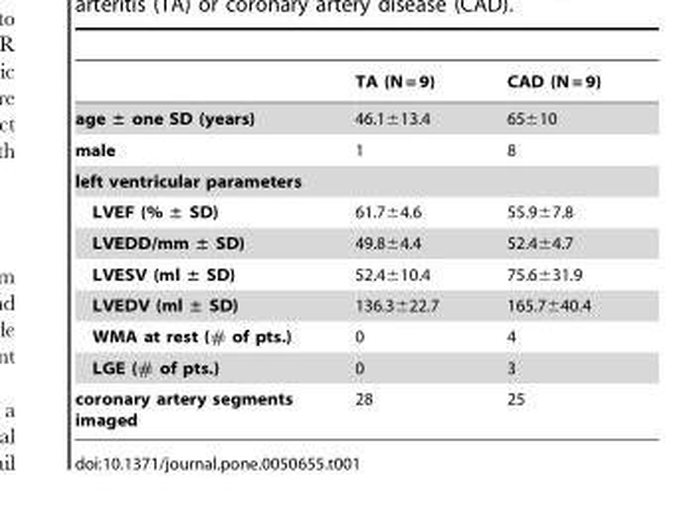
<table><thead><tr><td></td><td>TA (N = 9)</td><td>CAD (N = 9)</td></tr></thead><tbody><tr><td>age ± one SD (years)</td><td>46.1±13.4</td><td>65±10</td></tr><tr><td>male</td><td>1</td><td>8</td></tr><tr><td colspan="3">left ventricular parameters</td></tr><tr><td>LVEF (% ± SD)</td><td>61.7±4.6</td><td>55.9±7.8</td></tr><tr><td>LVEDD/mm ± SD)</td><td>49.8±4.4</td><td>52.4±4.7</td></tr><tr><td>LVESV (ml ± SD)</td><td>52.4±10.4</td><td>75.6±31.9</td></tr><tr><td>LVEDV (ml ± SD)</td><td>136.3±22.7</td><td>165.7±40.4</td></tr><tr><td>WMA at rest (# of pts.)</td><td>0</td><td>4</td></tr><tr><td>LGE (# of pts.)</td><td>0</td><td>3</td></tr><tr><td>coronary artery segments imaged</td><td>28</td><td>25</td></tr></tbody></table>